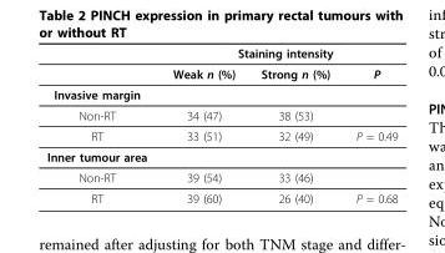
<table><thead><tr><td rowspan="2"></td><td colspan="3">Staining intensity</td></tr><tr><td>Weak n (%)</td><td>Strong n (%)</td><td>P</td></tr></thead><tbody><tr><td colspan="4">Invasive margin</td></tr><tr><td>Non-RT</td><td>34 (47)</td><td>38 (53)</td><td></td></tr><tr><td>RT</td><td>33 (51)</td><td>32 (49)</td><td>P = 0.49</td></tr><tr><td colspan="4">Inner tumour area</td></tr><tr><td>Non-RT</td><td>39 (54)</td><td>33 (46)</td><td></td></tr><tr><td>RT</td><td>39 (60)</td><td>26 (40)</td><td>P = 0.68</td></tr></tbody></table>